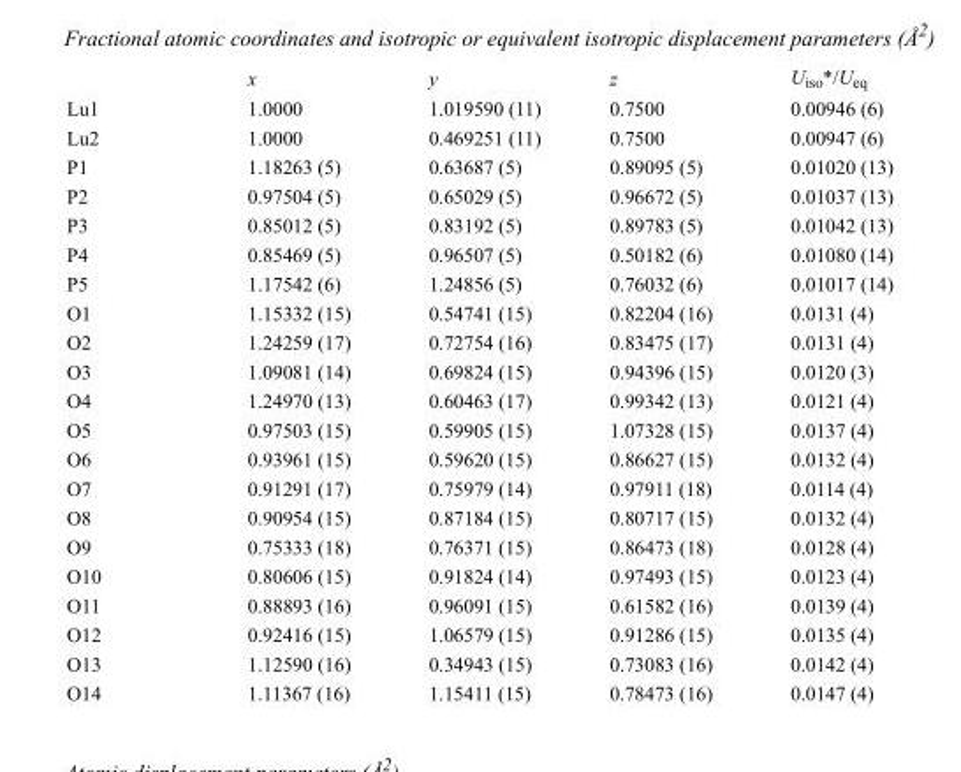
<table><thead><tr><td></td><td>x</td><td>y</td><td>z</td><td>U<sub>iso</sub>*/U<sub>eq</sub></td></tr></thead><tbody><tr><td>Lu1</td><td>1.0000</td><td>1.019590 (11)</td><td>0.7500</td><td>0.00946 (6)</td></tr><tr><td>Lu2</td><td>1.0000</td><td>0.469251 (11)</td><td>0.7500</td><td>0.00947 (6)</td></tr><tr><td>P1</td><td>1.18263 (5)</td><td>0.63687 (5)</td><td>0.89095 (5)</td><td>0.01020 (13)</td></tr><tr><td>P2</td><td>0.97504 (5)</td><td>0.65029 (5)</td><td>0.96672 (5)</td><td>0.01037 (13)</td></tr><tr><td>P3</td><td>0.85012 (5)</td><td>0.83192 (5)</td><td>0.89783 (5)</td><td>0.01042 (13)</td></tr><tr><td>P4</td><td>0.85469 (5)</td><td>0.96507 (5)</td><td>0.50182 (6)</td><td>0.01080 (14)</td></tr><tr><td>P5</td><td>1.17542 (6)</td><td>1.24856 (5)</td><td>0.76032 (6)</td><td>0.01017 (14)</td></tr><tr><td>O1</td><td>1.15332 (15)</td><td>0.54741 (15)</td><td>0.82204 (16)</td><td>0.0131 (4)</td></tr><tr><td>O2</td><td>1.24259 (17)</td><td>0.72754 (16)</td><td>0.83475 (17)</td><td>0.0131 (4)</td></tr><tr><td>O3</td><td>1.09081 (14)</td><td>0.69824 (15)</td><td>0.94396 (15)</td><td>0.0120 (3)</td></tr><tr><td>O4</td><td>1.24970 (13)</td><td>0.60463 (17)</td><td>0.99342 (13)</td><td>0.0121 (4)</td></tr><tr><td>O5</td><td>0.97503 (15)</td><td>0.59905 (15)</td><td>1.07328 (15)</td><td>0.0137 (4)</td></tr><tr><td>O6</td><td>0.93961 (15)</td><td>0.59620 (15)</td><td>0.86627 (15)</td><td>0.0132 (4)</td></tr><tr><td>O7</td><td>0.91291 (17)</td><td>0.75979 (14)</td><td>0.97911 (18)</td><td>0.0114 (4)</td></tr><tr><td>O8</td><td>0.90954 (15)</td><td>0.87184 (15)</td><td>0.80717 (15)</td><td>0.0132 (4)</td></tr><tr><td>O9</td><td>0.75333 (18)</td><td>0.76371 (15)</td><td>0.86473 (18)</td><td>0.0128 (4)</td></tr><tr><td>O10</td><td>0.80606 (15)</td><td>0.91824 (14)</td><td>0.97493 (15)</td><td>0.0123 (4)</td></tr><tr><td>O11</td><td>0.88893 (16)</td><td>0.96091 (15)</td><td>0.61582 (16)</td><td>0.0139 (4)</td></tr><tr><td>O12</td><td>0.92416 (15)</td><td>1.06579 (15)</td><td>0.91286 (15)</td><td>0.0135 (4)</td></tr><tr><td>O13</td><td>1.12590 (16)</td><td>0.34943 (15)</td><td>0.73083 (16)</td><td>0.0142 (4)</td></tr><tr><td>O14</td><td>1.11367 (16)</td><td>1.15411 (15)</td><td>0.78473 (16)</td><td>0.0147 (4)</td></tr></tbody></table>